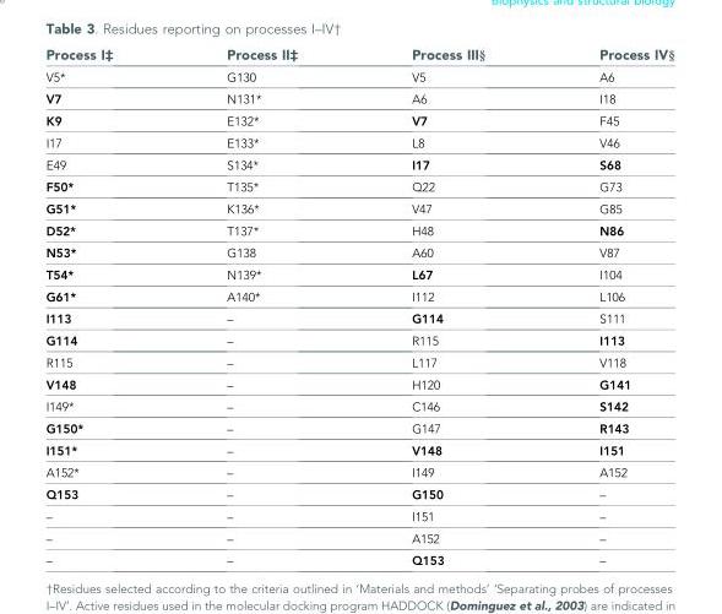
<table><thead><tr><td>Process I‡</td><td>Process II‡</td><td>Process III§</td><td>Process IV§</td></tr></thead><tbody><tr><td>V5*</td><td>G130</td><td>V5</td><td>A6</td></tr><tr><td>V7</td><td>N131*</td><td>A6</td><td>I18</td></tr><tr><td>K9</td><td>E132*</td><td>V7</td><td>F45</td></tr><tr><td>I17</td><td>E133*</td><td>L8</td><td>V46</td></tr><tr><td>E49</td><td>S134*</td><td>I17</td><td>S68</td></tr><tr><td>F50*</td><td>T135*</td><td>Q22</td><td>G73</td></tr><tr><td>G51*</td><td>K136*</td><td>V47</td><td>G85</td></tr><tr><td>D52*</td><td>T137*</td><td>H48</td><td>N86</td></tr><tr><td>N53*</td><td>G138</td><td>A60</td><td>V87</td></tr><tr><td>T54*</td><td>N139*</td><td>L67</td><td>I104</td></tr><tr><td>G61*</td><td>A140*</td><td>I112</td><td>L106</td></tr><tr><td>I113</td><td>–</td><td>G114</td><td>S111</td></tr><tr><td>G114</td><td>–</td><td>R115</td><td>I113</td></tr><tr><td>R115</td><td>–</td><td>L117</td><td>V118</td></tr><tr><td>V148</td><td>–</td><td>H120</td><td>G141</td></tr><tr><td>I149*</td><td>–</td><td>C146</td><td>S142</td></tr><tr><td>G150*</td><td>–</td><td>G147</td><td>R143</td></tr><tr><td>I151*</td><td>–</td><td>V148</td><td>I151</td></tr><tr><td>A152*</td><td>–</td><td>I149</td><td>A152</td></tr><tr><td>Q153</td><td>–</td><td>G150</td><td>–</td></tr><tr><td>–</td><td>–</td><td>I151</td><td>–</td></tr><tr><td>–</td><td>–</td><td>A152</td><td>–</td></tr><tr><td>–</td><td>–</td><td>Q153</td><td>–</td></tr></tbody></table>